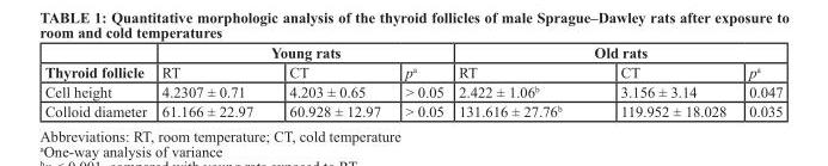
<table><thead><tr><td rowspan="2">Thyroid follicle</td><td colspan="3">Young rats</td><td colspan="3">Old rats</td></tr><tr><td>RT</td><td>CT</td><td>p<sup>a</sup></td><td>RT</td><td>CT</td><td>p<sup>a</sup></td></tr></thead><tbody><tr><td>Cell height</td><td>4.2307 ± 0.71</td><td>4.203 ± 0.65</td><td>&gt; 0.05</td><td>2.422 ± 1.06<sup>b</sup></td><td>3.156 ± 3.14</td><td>0.047</td></tr><tr><td>Colloid diameter</td><td>61.166 ± 22.97</td><td>60.928 ± 12.97</td><td>&gt; 0.05</td><td>131.616 ± 27.76<sup>b</sup></td><td>119.952 ± 18.028</td><td>0.035</td></tr></tbody></table>